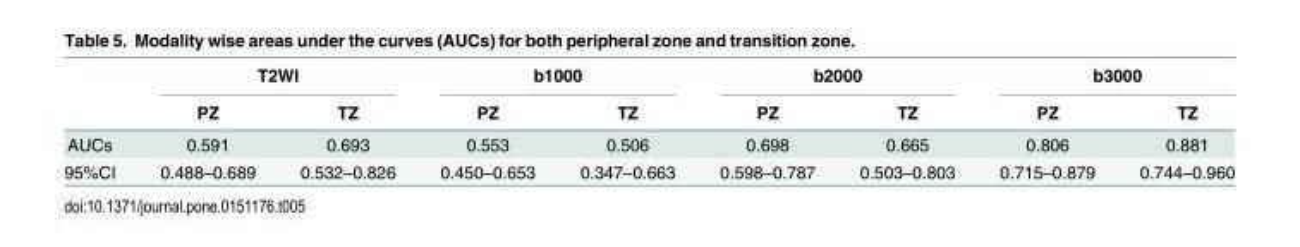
<table><thead><tr><td rowspan="2"></td><td colspan="2">T2WI</td><td colspan="2">b1000</td><td colspan="2">b2000</td><td colspan="2">b3000</td></tr><tr><td>PZ</td><td>TZ</td><td>PZ</td><td>TZ</td><td>PZ</td><td>TZ</td><td>PZ</td><td>TZ</td></tr></thead><tbody><tr><td>AUCs</td><td>0.591</td><td>0.693</td><td>0.553</td><td>0.506</td><td>0.698</td><td>0.665</td><td>0.806</td><td>0.881</td></tr><tr><td>95%CI</td><td>0.488–0.689</td><td>0.532–0.826</td><td>0.450–0.653</td><td>0.347–0.663</td><td>0.598–0.787</td><td>0.503–0.803</td><td>0.715–0.879</td><td>0.744–0.960</td></tr></tbody></table>